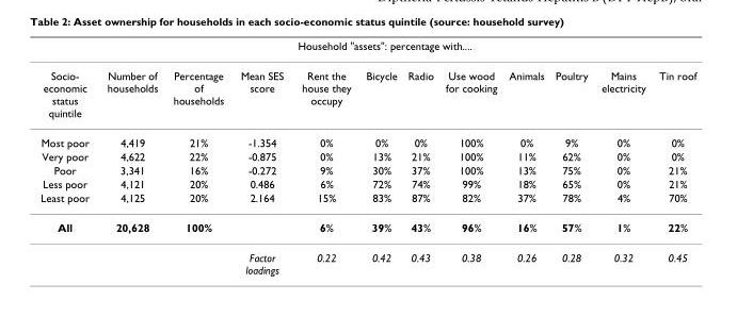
<table><thead><tr><td rowspan="2">Socio- economic status quintile</td><td rowspan="2">Number of households</td><td rowspan="2">Percentage of households</td><td rowspan="2">Mean SES score</td><td colspan="8">Household &quot;assets&quot;: percentage with....</td></tr><tr><td>Rent the house they occupy</td><td>Bicycle</td><td>Radio</td><td>Use wood for cooking</td><td>Animals</td><td>Poultry</td><td>Mains electricity</td><td>Tin roof</td></tr></thead><tbody><tr><td>Most poor</td><td>4,419</td><td>21%</td><td>-1.354</td><td>0%</td><td>0%</td><td>0%</td><td>100%</td><td>0%</td><td>9%</td><td>0%</td><td>0%</td></tr><tr><td>Very poor</td><td>4,622</td><td>22%</td><td>-0.875</td><td>0%</td><td>13%</td><td>21%</td><td>100%</td><td>11%</td><td>62%</td><td>0%</td><td>0%</td></tr><tr><td>Poor</td><td>3,341</td><td>16%</td><td>-0.272</td><td>9%</td><td>30%</td><td>37%</td><td>100%</td><td>13%</td><td>75%</td><td>0%</td><td>21%</td></tr><tr><td>Less poor</td><td>4,121</td><td>20%</td><td>0.486</td><td>6%</td><td>72%</td><td>74%</td><td>99%</td><td>18%</td><td>65%</td><td>0%</td><td>21%</td></tr><tr><td>Least poor</td><td>4,125</td><td>20%</td><td>2.164</td><td>15%</td><td>83%</td><td>87%</td><td>82%</td><td>37%</td><td>78%</td><td>4%</td><td>70%</td></tr><tr><td rowspan="2">All</td><td>20,628</td><td>100%</td><td></td><td>6%</td><td>39%</td><td>43%</td><td>96%</td><td>16%</td><td>57%</td><td>1%</td><td>22%</td></tr><tr><td></td><td></td><td>Factor loadings</td><td>0.22</td><td>0.42</td><td>0.43</td><td>0.38</td><td>0.26</td><td>0.28</td><td>0.32</td><td>0.45</td></tr></tbody></table>